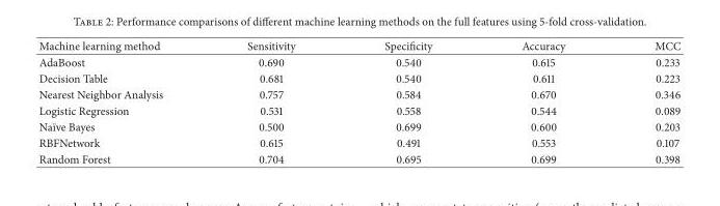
<table><thead><tr><td>Machine learning method</td><td>Sensitivity</td><td>Specificity</td><td>Accuracy</td><td>MCC</td></tr></thead><tbody><tr><td>AdaBoost</td><td>0.690</td><td>0.540</td><td>0.615</td><td>0.233</td></tr><tr><td>Decision Table</td><td>0.681</td><td>0.540</td><td>0.611</td><td>0.223</td></tr><tr><td>Nearest Neighbor Analysis</td><td>0.757</td><td>0.584</td><td>0.670</td><td>0.346</td></tr><tr><td>Logistic Regression</td><td>0.531</td><td>0.558</td><td>0.544</td><td>0.089</td></tr><tr><td>Na¨ıve Bayes</td><td>0.500</td><td>0.699</td><td>0.600</td><td>0.203</td></tr><tr><td>RBFNetwork</td><td>0.615</td><td>0.491</td><td>0.553</td><td>0.107</td></tr><tr><td>Random Forest</td><td>0.704</td><td>0.695</td><td>0.699</td><td>0.398</td></tr></tbody></table>